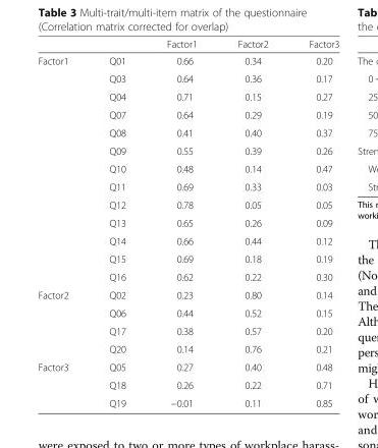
<table><thead><tr><td></td><td></td><td>Factor1</td><td>Factor2</td><td>Factor3</td></tr></thead><tbody><tr><td rowspan="13">Factor1</td><td>Q01</td><td>0.66</td><td>0.34</td><td>0.20</td></tr><tr><td>Q03</td><td>0.64</td><td>0.36</td><td>0.17</td></tr><tr><td>Q04</td><td>0.71</td><td>0.15</td><td>0.27</td></tr><tr><td>Q07</td><td>0.64</td><td>0.29</td><td>0.19</td></tr><tr><td>Q08</td><td>0.41</td><td>0.40</td><td>0.37</td></tr><tr><td>Q09</td><td>0.55</td><td>0.39</td><td>0.26</td></tr><tr><td>Q10</td><td>0.48</td><td>0.14</td><td>0.47</td></tr><tr><td>Q11</td><td>0.69</td><td>0.33</td><td>0.03</td></tr><tr><td>Q12</td><td>0.78</td><td>0.05</td><td>0.05</td></tr><tr><td>Q13</td><td>0.65</td><td>0.26</td><td>0.09</td></tr><tr><td>Q14</td><td>0.66</td><td>0.44</td><td>0.12</td></tr><tr><td>Q15</td><td>0.69</td><td>0.18</td><td>0.19</td></tr><tr><td>Q16</td><td>0.62</td><td>0.22</td><td>0.30</td></tr><tr><td rowspan="4">Factor2</td><td>Q02</td><td>0.23</td><td>0.80</td><td>0.14</td></tr><tr><td>Q06</td><td>0.44</td><td>0.52</td><td>0.15</td></tr><tr><td>Q17</td><td>0.38</td><td>0.57</td><td>0.20</td></tr><tr><td>Q20</td><td>0.14</td><td>0.76</td><td>0.21</td></tr><tr><td rowspan="3">Factor3</td><td>Q05</td><td>0.27</td><td>0.40</td><td>0.48</td></tr><tr><td>Q18</td><td>0.26</td><td>0.22</td><td>0.71</td></tr><tr><td>Q19</td><td>−0.01</td><td>0.11</td><td>0.85</td></tr></tbody></table>